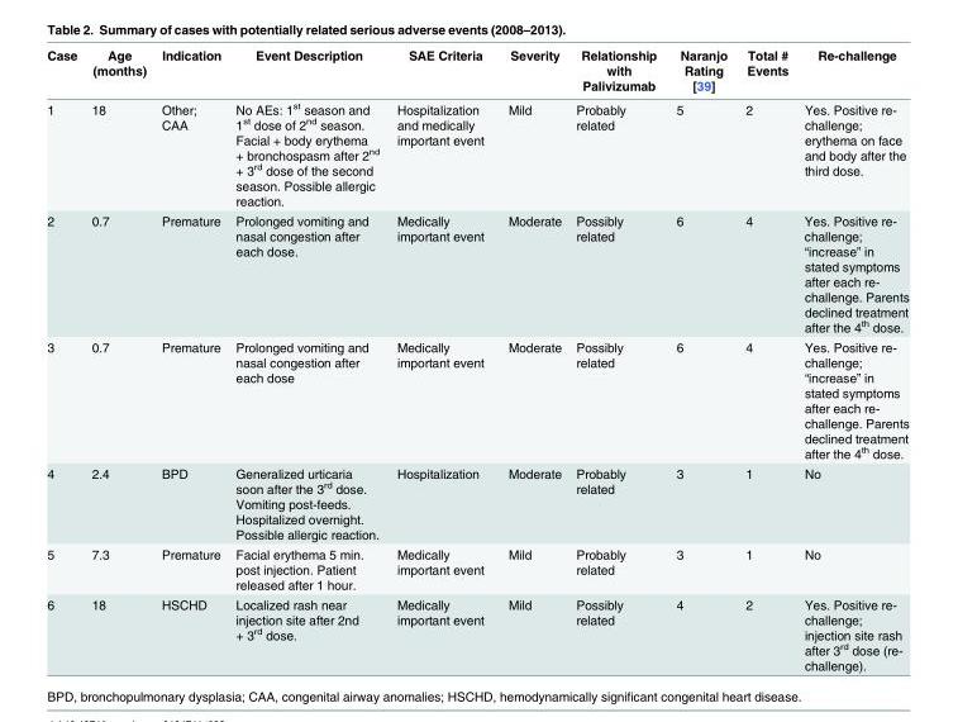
<table><thead><tr><td>Case</td><td>Age (months)</td><td>Indication</td><td>Event Description</td><td>SAE Criteria</td><td>Severity</td><td>Relationship with Palivizumab</td><td>Naranjo Rating [39]</td><td>Total # Events</td><td>Re-challenge</td></tr></thead><tbody><tr><td>1</td><td>18</td><td>Other; CAA</td><td>No AEs: 1<sup>st</sup> season and 1<sup>st</sup> dose of 2<sup>nd</sup> season. Facial + body erythema + bronchospasm after 2<sup>nd</sup> + 3<sup>rd</sup> dose of the second season. Possible allergic reaction.</td><td>Hospitalization and medically important event</td><td>Mild</td><td>Probably related</td><td>5</td><td>2</td><td>Yes. Positive re- challenge; erythema on face and body after the third dose.</td></tr><tr><td>2</td><td>0.7</td><td>Premature</td><td>Prolonged vomiting and nasal congestion after each dose.</td><td>Medically important event</td><td>Moderate</td><td>Possibly related</td><td>6</td><td>4</td><td>Yes. Positive re- challenge; “increase” in stated symptoms after each re- challenge. Parents declined treatment after the 4<sup>th</sup> dose.</td></tr><tr><td>3</td><td>0.7</td><td>Premature</td><td>Prolonged vomiting and nasal congestion after each dose</td><td>Medically important event</td><td>Moderate</td><td>Possibly related</td><td>6</td><td>4</td><td>Yes. Positive re- challenge; “increase” in stated symptoms after each re- challenge. Parents declined treatment after the 4<sup>th</sup> dose.</td></tr><tr><td>4</td><td>2.4</td><td>BPD</td><td>Generalized urticaria soon after the 3<sup>rd</sup> dose. Vomiting post-feeds. Hospitalized overnight. Possible allergic reaction.</td><td>Hospitalization</td><td>Moderate</td><td>Probably related</td><td>3</td><td>1</td><td>No</td></tr><tr><td>5</td><td>7.3</td><td>Premature</td><td>Facial erythema 5 min. post injection. Patient released after 1 hour.</td><td>Medically important event</td><td>Mild</td><td>Probably related</td><td>3</td><td>1</td><td>No</td></tr><tr><td>6</td><td>18</td><td>HSCHD</td><td>Localized rash near injection site after 2nd + 3<sup>rd</sup> dose.</td><td>Medically important event</td><td>Mild</td><td>Possibly related</td><td>4</td><td>2</td><td>Yes. Positive re- challenge; injection site rash after 3<sup>rd</sup> dose (re- challenge).</td></tr></tbody></table>